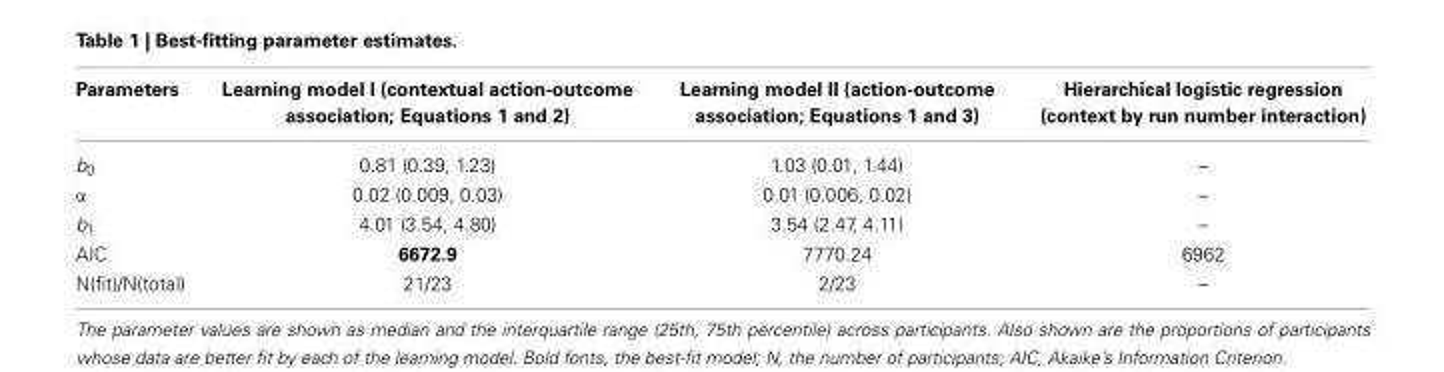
<table><thead><tr><td>Parameters</td><td>Learning model I (contextual action-outcome association; Equations 1 and 2)</td><td>Learning model II (action-outcome association; Equations 1 and 3)</td><td>Hierarchical logistic regression (context by run number interaction)</td></tr></thead><tbody><tr><td>b<sub>0</sub></td><td>0.81 (0.39, 1.23)</td><td>1.03 (0.01, 1.44)</td><td>–</td></tr><tr><td>α</td><td>0.02 (0.009, 0.03)</td><td>0.01 (0.006, 0.02)</td><td>–</td></tr><tr><td>b<sub>1</sub></td><td>4.01 (3.54, 4.80)</td><td>3.54 (2.47, 4.11)</td><td>–</td></tr><tr><td>AIC</td><td>6672.9</td><td>7770.24</td><td>6962</td></tr><tr><td>N(fit)/N(total)</td><td>21/23</td><td>2/23</td><td>–</td></tr></tbody></table>